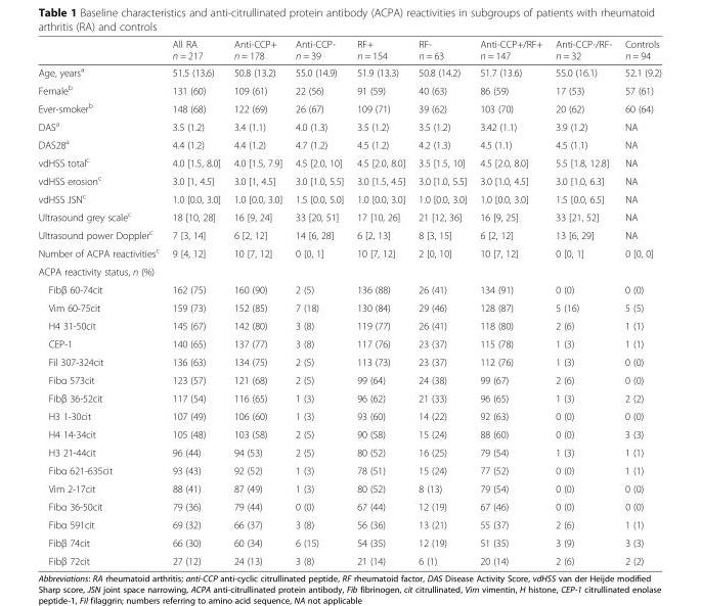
<table><thead><tr><td></td><td>All RA n = 217</td><td>Anti-CCP+ n = 178</td><td>Anti-CCP- n = 39</td><td>RF+ n = 154</td><td>RF- n = 63</td><td>Anti-CCP+/RF+ n = 147</td><td>Anti-CCP-/RF- n = 32</td><td>Controls n = 94</td></tr></thead><tbody><tr><td>Age, years<sup>a</sup></td><td>51.5 (13.6)</td><td>50.8 (13.2)</td><td>55.0 (14.9)</td><td>51.9 (13.3)</td><td>50.8 (14.2)</td><td>51.7 (13.6)</td><td>55.0 (16.1)</td><td>52.1 (9.2)</td></tr><tr><td>Female<sup>b</sup></td><td>131 (60)</td><td>109 (61)</td><td>22 (56)</td><td>91 (59)</td><td>40 (63)</td><td>86 (59)</td><td>17 (53)</td><td>57 (61)</td></tr><tr><td>Ever-smoker<sup>b</sup></td><td>148 (68)</td><td>122 (69)</td><td>26 (67)</td><td>109 (71)</td><td>39 (62)</td><td>103 (70)</td><td>20 (62)</td><td>60 (64)</td></tr><tr><td>DAS<sup>a</sup></td><td>3.5 (1.2)</td><td>3.4 (1.1)</td><td>4.0 (1.3)</td><td>3.5 (1.2)</td><td>3.5 (1.2)</td><td>3.42 (1.1)</td><td>3.9 (1.2)</td><td>NA</td></tr><tr><td>DAS28<sup>a</sup></td><td>4.4 (1.2)</td><td>4.4 (1.2)</td><td>4.7 (1.2)</td><td>4.5 (1.2)</td><td>4.2 (1.3)</td><td>4.5 (1.1)</td><td>4.5 (1.1)</td><td>NA</td></tr><tr><td>vdHSS total<sup>c</sup></td><td>4.0 [1.5, 8.0]</td><td>4.0 [1.5, 7.9]</td><td>4.5 [2.0, 10]</td><td>4.5 [2.0, 8.0]</td><td>3.5 [1.5, 10]</td><td>4.5 [2.0, 8.0]</td><td>5.5 [1.8, 12.8]</td><td>NA</td></tr><tr><td>vdHSS erosion<sup>c</sup></td><td>3.0 [1, 4.5]</td><td>3.0 [1, 4.5]</td><td>3.0 [1.0, 5.5]</td><td>3.0 [1.5, 4.5]</td><td>3.0 [1.0, 5.5]</td><td>3.0 [1.0, 4.5]</td><td>3.0 [1.0, 6.3]</td><td>NA</td></tr><tr><td>vdHSS JSN<sup>c</sup></td><td>1.0 [0.0, 3.0]</td><td>1.0 [0.0, 3.0]</td><td>1.5 [0.0, 5.0]</td><td>1.0 [0.0, 3.0]</td><td>1.0 [0.0, 3.0]</td><td>1.0 [0.0, 3.0]</td><td>1.5 [0.0, 6.5]</td><td>NA</td></tr><tr><td>Ultrasound grey scale<sup>c</sup></td><td>18 [10, 28]</td><td>16 [9, 24]</td><td>33 [20, 51]</td><td>17 [10, 26]</td><td>21 [12, 36]</td><td>16 [9, 25]</td><td>33 [21, 52]</td><td>NA</td></tr><tr><td>Ultrasound power Doppler<sup>c</sup></td><td>7 [3, 14]</td><td>6 [2, 12]</td><td>14 [6, 28]</td><td>6 [2, 13]</td><td>8 [3, 15]</td><td>6 [2, 12]</td><td>13 [6, 29]</td><td>NA</td></tr><tr><td>Number of ACPA reactivities<sup>c</sup></td><td>9 [4, 12]</td><td>10 [7, 12]</td><td>0 [0, 1]</td><td>10 [7, 12]</td><td>2 [0, 10]</td><td>10 [7, 12]</td><td>0 [0, 1]</td><td>0 [0, 0]</td></tr><tr><td colspan="9">ACPA reactivity status, n (%)</td></tr><tr><td>Fibβ 60-74cit</td><td>162 (75)</td><td>160 (90)</td><td>2 (5)</td><td>136 (88)</td><td>26 (41)</td><td>134 (91)</td><td>0 (0)</td><td>0 (0)</td></tr><tr><td>Vim 60-75cit</td><td>159 (73)</td><td>152 (85)</td><td>7 (18)</td><td>130 (84)</td><td>29 (46)</td><td>128 (87)</td><td>5 (16)</td><td>5 (5)</td></tr><tr><td>H4 31-50cit</td><td>145 (67)</td><td>142 (80)</td><td>3 (8)</td><td>119 (77)</td><td>26 (41)</td><td>118 (80)</td><td>2 (6)</td><td>1 (1)</td></tr><tr><td>CEP-1</td><td>140 (65)</td><td>137 (77)</td><td>3 (8)</td><td>117 (76)</td><td>23 (37)</td><td>115 (78)</td><td>1 (3)</td><td>1 (1)</td></tr><tr><td>Fil 307-324cit</td><td>136 (63)</td><td>134 (75)</td><td>2 (5)</td><td>113 (73)</td><td>23 (37)</td><td>112 (76)</td><td>1 (3)</td><td>0 (0)</td></tr><tr><td>Fibα 573cit</td><td>123 (57)</td><td>121 (68)</td><td>2 (5)</td><td>99 (64)</td><td>24 (38)</td><td>99 (67)</td><td>2 (6)</td><td>0 (0)</td></tr><tr><td>Fibβ 36-52cit</td><td>117 (54)</td><td>116 (65)</td><td>1 (3)</td><td>96 (62)</td><td>21 (33)</td><td>96 (65)</td><td>1 (3)</td><td>2 (2)</td></tr><tr><td>H3 1-30cit</td><td>107 (49)</td><td>106 (60)</td><td>1 (3)</td><td>93 (60)</td><td>14 (22)</td><td>92 (63)</td><td>0 (0)</td><td>0 (0)</td></tr><tr><td>H4 14-34cit</td><td>105 (48)</td><td>103 (58)</td><td>2 (5)</td><td>90 (58)</td><td>15 (24)</td><td>88 (60)</td><td>0 (0)</td><td>3 (3)</td></tr><tr><td>H3 21-44cit</td><td>96 (44)</td><td>94 (53)</td><td>2 (5)</td><td>80 (52)</td><td>16 (25)</td><td>79 (54)</td><td>1 (3)</td><td>1 (1)</td></tr><tr><td>Fibα 621-635cit</td><td>93 (43)</td><td>92 (52)</td><td>1 (3)</td><td>78 (51)</td><td>15 (24)</td><td>77 (52)</td><td>0 (0)</td><td>1 (1)</td></tr><tr><td>Vim 2-17cit</td><td>88 (41)</td><td>87 (49)</td><td>1 (3)</td><td>80 (52)</td><td>8 (13)</td><td>79 (54)</td><td>0 (0)</td><td>0 (0)</td></tr><tr><td>Fibα 36-50cit</td><td>79 (36)</td><td>79 (44)</td><td>0 (0)</td><td>67 (44)</td><td>12 (19)</td><td>67 (46)</td><td>0 (0)</td><td>0 (0)</td></tr><tr><td>Fibα 591cit</td><td>69 (32)</td><td>66 (37)</td><td>3 (8)</td><td>56 (36)</td><td>13 (21)</td><td>55 (37)</td><td>2 (6)</td><td>1 (1)</td></tr><tr><td>Fibβ 74cit</td><td>66 (30)</td><td>60 (34)</td><td>6 (15)</td><td>54 (35)</td><td>12 (19)</td><td>51 (35)</td><td>3 (9)</td><td>3 (3)</td></tr><tr><td>Fibβ 72cit</td><td>27 (12)</td><td>24 (13)</td><td>3 (8)</td><td>21 (14)</td><td>6 (1)</td><td>20 (14)</td><td>2 (6)</td><td>2 (2)</td></tr></tbody></table>